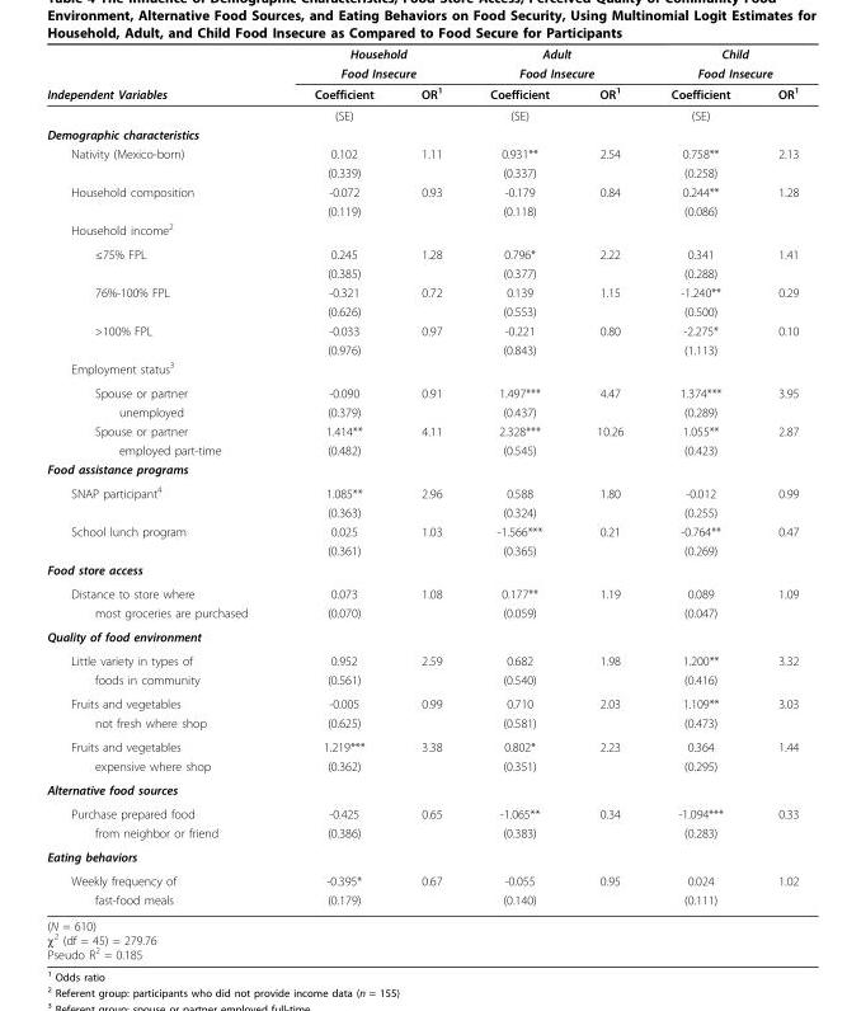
<table><thead><tr><td rowspan="3">Independent Variables</td><td rowspan="2" colspan="2">Household Food Insecure</td><td rowspan="2" colspan="2">Adult Food Insecure</td><td rowspan="2" colspan="2">Child Food Insecure</td></tr><tr></tr><tr><td>Coefficient</td><td>OR<sup>1</sup></td><td>Coefficient</td><td>OR<sup>1</sup></td><td>Coefficient</td><td>OR<sup>1</sup></td></tr></thead><tbody><tr><td></td><td>(SE)</td><td></td><td>(SE)</td><td></td><td>(SE)</td><td></td></tr><tr><td colspan="7">Demographic characteristics</td></tr><tr><td rowspan="2">Nativity (Mexico-born)</td><td>0.102</td><td>1.11</td><td>0.931**</td><td>2.54</td><td>0.758**</td><td>2.13</td></tr><tr><td>(0.339)</td><td></td><td>(0.337)</td><td></td><td>(0.258)</td><td></td></tr><tr><td rowspan="2">Household composition</td><td>-0.072</td><td>0.93</td><td>-0.179</td><td>0.84</td><td>0.244**</td><td>1.28</td></tr><tr><td>(0.119)</td><td></td><td>(0.118)</td><td></td><td>(0.086)</td><td></td></tr><tr><td colspan="7">Household income<sup>2</sup></td></tr><tr><td rowspan="2">≤75% FPL</td><td>0.245</td><td>1.28</td><td>0.796*</td><td>2.22</td><td>0.341</td><td>1.41</td></tr><tr><td>(0.385)</td><td></td><td>(0.377)</td><td></td><td>(0.288)</td><td></td></tr><tr><td rowspan="2">76%-100% FPL</td><td>-0.321</td><td>0.72</td><td>0.139</td><td>1.15</td><td>-1.240**</td><td>0.29</td></tr><tr><td>(0.626)</td><td></td><td>(0.553)</td><td></td><td>(0.500)</td><td></td></tr><tr><td rowspan="2">&gt;100% FPL</td><td>-0.033</td><td>0.97</td><td>-0.221</td><td>0.80</td><td>-2.275*</td><td>0.10</td></tr><tr><td>(0.976)</td><td></td><td>(0.843)</td><td></td><td>(1.113)</td><td></td></tr><tr><td colspan="7">Employment status<sup>3</sup></td></tr><tr><td>Spouse or partner</td><td>-0.090</td><td>0.91</td><td>1.497***</td><td>4.47</td><td>1.374***</td><td>3.95</td></tr><tr><td>unemployed</td><td>(0.379)</td><td></td><td>(0.437)</td><td></td><td>(0.289)</td><td></td></tr><tr><td>Spouse or partner</td><td>1.414**</td><td>4.11</td><td>2.328***</td><td>10.26</td><td>1.055**</td><td>2.87</td></tr><tr><td>employed part-time</td><td>(0.482)</td><td></td><td>(0.545)</td><td></td><td>(0.423)</td><td></td></tr><tr><td colspan="7">Food assistance programs</td></tr><tr><td rowspan="2">SNAP participant<sup>4</sup></td><td>1.085**</td><td>2.96</td><td>0.588</td><td>1.80</td><td>-0.012</td><td>0.99</td></tr><tr><td>(0.363)</td><td></td><td>(0.324)</td><td></td><td>(0.255)</td><td></td></tr><tr><td rowspan="2">School lunch program</td><td>0.025</td><td>1.03</td><td>-1.566***</td><td>0.21</td><td>-0.764**</td><td>0.47</td></tr><tr><td>(0.361)</td><td></td><td>(0.365)</td><td></td><td>(0.269)</td><td></td></tr><tr><td colspan="7">Food store access</td></tr><tr><td>Distance to store where</td><td>0.073</td><td>1.08</td><td>0.177**</td><td>1.19</td><td>0.089</td><td>1.09</td></tr><tr><td>most groceries are purchased</td><td>(0.070)</td><td></td><td>(0.059)</td><td></td><td>(0.047)</td><td></td></tr><tr><td colspan="7">Quality of food environment</td></tr><tr><td>Little variety in types of</td><td>0.952</td><td>2.59</td><td>0.682</td><td>1.98</td><td>1.200**</td><td>3.32</td></tr><tr><td>foods in community</td><td>(0.561)</td><td></td><td>(0.540)</td><td></td><td>(0.416)</td><td></td></tr><tr><td>Fruits and vegetables</td><td>-0.005</td><td>0.99</td><td>0.710</td><td>2.03</td><td>1.109**</td><td>3.03</td></tr><tr><td>not fresh where shop</td><td>(0.625)</td><td></td><td>(0.581)</td><td></td><td>(0.473)</td><td></td></tr><tr><td>Fruits and vegetables</td><td>1.219***</td><td>3.38</td><td>0.802*</td><td>2.23</td><td>0.364</td><td>1.44</td></tr><tr><td>expensive where shop</td><td>(0.362)</td><td></td><td>(0.351)</td><td></td><td>(0.295)</td><td></td></tr><tr><td colspan="7">Alternative food sources</td></tr><tr><td>Purchase prepared food</td><td>-0.425</td><td>0.65</td><td>-1.065**</td><td>0.34</td><td>-1.094***</td><td>0.33</td></tr><tr><td>from neighbor or friend</td><td>(0.386)</td><td></td><td>(0.383)</td><td></td><td>(0.283)</td><td></td></tr><tr><td colspan="7">Eating behaviors</td></tr><tr><td>Weekly frequency of</td><td>-0.395*</td><td>0.67</td><td>-0.055</td><td>0.95</td><td>0.024</td><td>1.02</td></tr><tr><td>fast-food meals</td><td>(0.179)</td><td></td><td>(0.140)</td><td></td><td>(0.111)</td><td></td></tr><tr><td>(N = 610) χ<sup>2</sup> (df = 45) = 279.76 Pseudo R<sup>2</sup> = 0.185</td><td></td><td></td><td></td><td></td><td></td><td></td></tr></tbody></table>